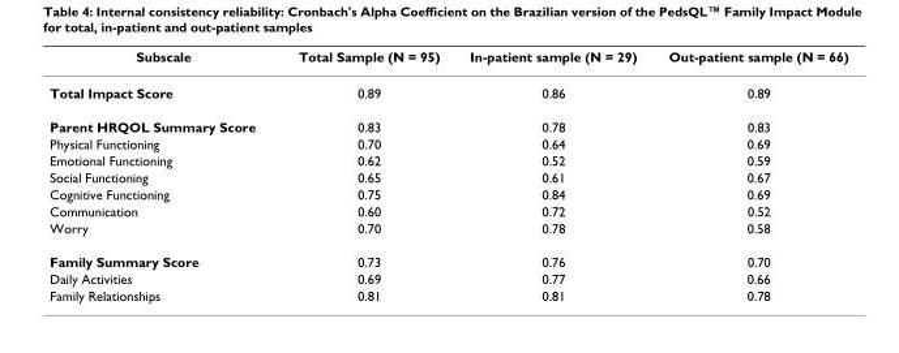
<table><thead><tr><td>Subscale</td><td>Total Sample (N = 95)</td><td>In-patient sample (N = 29)</td><td>Out-patient sample (N = 66)</td></tr></thead><tbody><tr><td>Total Impact Score</td><td>0.89</td><td>0.86</td><td>0.89</td></tr><tr><td>Parent HRQOL Summary Score</td><td>0.83</td><td>0.78</td><td>0.83</td></tr><tr><td>Physical Functioning</td><td>0.70</td><td>0.64</td><td>0.69</td></tr><tr><td>Emotional Functioning</td><td>0.62</td><td>0.52</td><td>0.59</td></tr><tr><td>Social Functioning</td><td>0.65</td><td>0.61</td><td>0.67</td></tr><tr><td>Cognitive Functioning</td><td>0.75</td><td>0.84</td><td>0.69</td></tr><tr><td>Communication</td><td>0.60</td><td>0.72</td><td>0.52</td></tr><tr><td>Worry</td><td>0.70</td><td>0.78</td><td>0.58</td></tr><tr><td>Family Summary Score</td><td>0.73</td><td>0.76</td><td>0.70</td></tr><tr><td>Daily Activities</td><td>0.69</td><td>0.77</td><td>0.66</td></tr><tr><td>Family Relationships</td><td>0.81</td><td>0.81</td><td>0.78</td></tr></tbody></table>